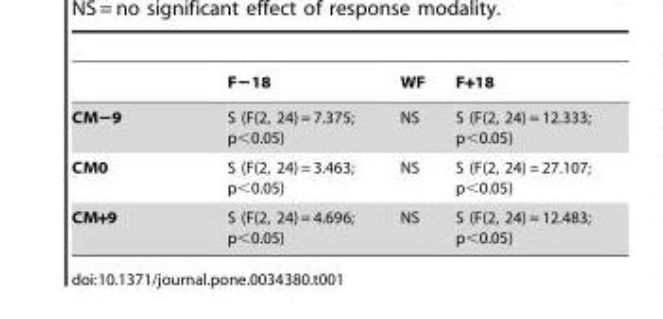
<table><thead><tr><td></td><td>F−18</td><td>WF</td><td>F+18</td></tr></thead><tbody><tr><td>CM−9</td><td>S (F(2, 24) = 7.375; p&lt;0.05)</td><td>NS</td><td>S (F(2, 24) = 12.333; p&lt;0.05)</td></tr><tr><td>CM0</td><td>S (F(2, 24) = 3.463; p&lt;0.05)</td><td>NS</td><td>S (F(2, 24) = 27.107; p&lt;0.05)</td></tr><tr><td>CM+9</td><td>S (F(2, 24) = 4.696; p&lt;0.05)</td><td>NS</td><td>S (F(2, 24) = 12.483; p&lt;0.05)</td></tr></tbody></table>